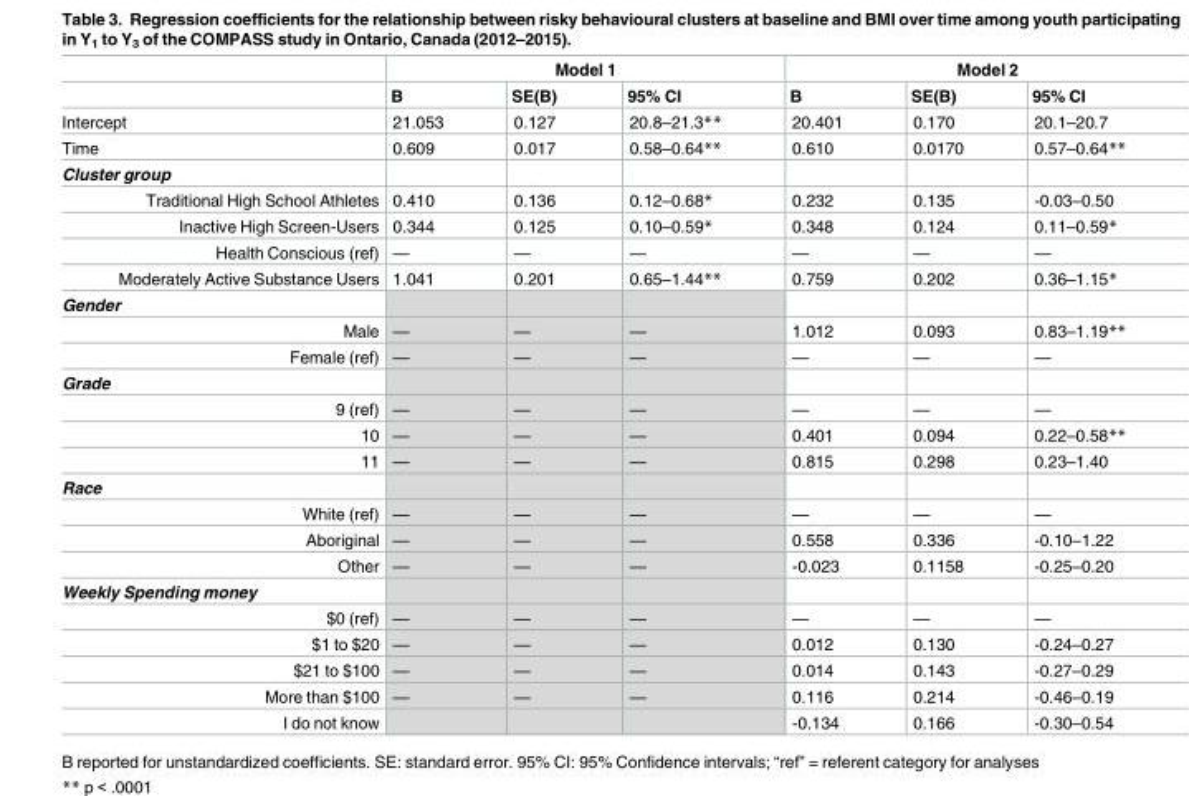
<table><thead><tr><td rowspan="2"></td><td colspan="3">Model 1</td><td colspan="3">Model 2</td></tr><tr><td>B</td><td>SE(B)</td><td>95% CI</td><td>Β</td><td>SE(B)</td><td>95% CI</td></tr></thead><tbody><tr><td>Intercept</td><td>21.053</td><td>0.127</td><td>20.8–21.3**</td><td>20.401</td><td>0.170</td><td>20.1–20.7</td></tr><tr><td>Time</td><td>0.609</td><td>0.017</td><td>0.58–0.64**</td><td>0.610</td><td>0.0170</td><td>0.57–0.64**</td></tr><tr><td colspan="7">Cluster group</td></tr><tr><td>Traditional High School Athletes</td><td>0.410</td><td>0.136</td><td>0.12–0.68*</td><td>0.232</td><td>0.135</td><td>-0.03–0.50</td></tr><tr><td>Inactive High Screen-Users</td><td>0.344</td><td>0.125</td><td>0.10–0.59*</td><td>0.348</td><td>0.124</td><td>0.11–0.59*</td></tr><tr><td>Health Conscious (ref)</td><td>—</td><td>—</td><td>—</td><td>—</td><td>—</td><td>—</td></tr><tr><td>Moderately Active Substance Users</td><td>1.041</td><td>0.201</td><td>0.65–1.44**</td><td>0.759</td><td>0.202</td><td>0.36–1.15*</td></tr><tr><td colspan="7">Gender</td></tr><tr><td>Male</td><td>—</td><td>—</td><td>—</td><td>1.012</td><td>0.093</td><td>0.83–1.19**</td></tr><tr><td>Female (ref)</td><td>—</td><td>—</td><td>—</td><td>—</td><td>—</td><td>—</td></tr><tr><td colspan="7">Grade</td></tr><tr><td>9 (ref)</td><td>—</td><td>—</td><td>—</td><td>—</td><td>—</td><td>—</td></tr><tr><td>10</td><td>—</td><td>—</td><td>—</td><td>0.401</td><td>0.094</td><td>0.22–0.58**</td></tr><tr><td>11</td><td>—</td><td>—</td><td>—</td><td>0.815</td><td>0.298</td><td>0.23–1.40</td></tr><tr><td colspan="7">Race</td></tr><tr><td>White (ref)</td><td>—</td><td>—</td><td>—</td><td>—</td><td>—</td><td>—</td></tr><tr><td>Aboriginal</td><td>—</td><td>—</td><td>—</td><td>0.558</td><td>0.336</td><td>-0.10–1.22</td></tr><tr><td>Other</td><td>—</td><td>—</td><td>—</td><td>-0.023</td><td>0.1158</td><td>-0.25–0.20</td></tr><tr><td colspan="7">Weekly Spending money</td></tr><tr><td>$0 (ref)</td><td>—</td><td>—</td><td>—</td><td>—</td><td>—</td><td>—</td></tr><tr><td>$1 to $20</td><td>—</td><td>—</td><td>—</td><td>0.012</td><td>0.130</td><td>-0.24–0.27</td></tr><tr><td>$21 to $100</td><td>—</td><td>—</td><td>—</td><td>0.014</td><td>0.143</td><td>-0.27–0.29</td></tr><tr><td>More than $100</td><td>—</td><td>—</td><td>—</td><td>0.116</td><td>0.214</td><td>-0.46–0.19</td></tr><tr><td>I do not know</td><td></td><td></td><td></td><td>-0.134</td><td>0.166</td><td>-0.30–0.54</td></tr></tbody></table>